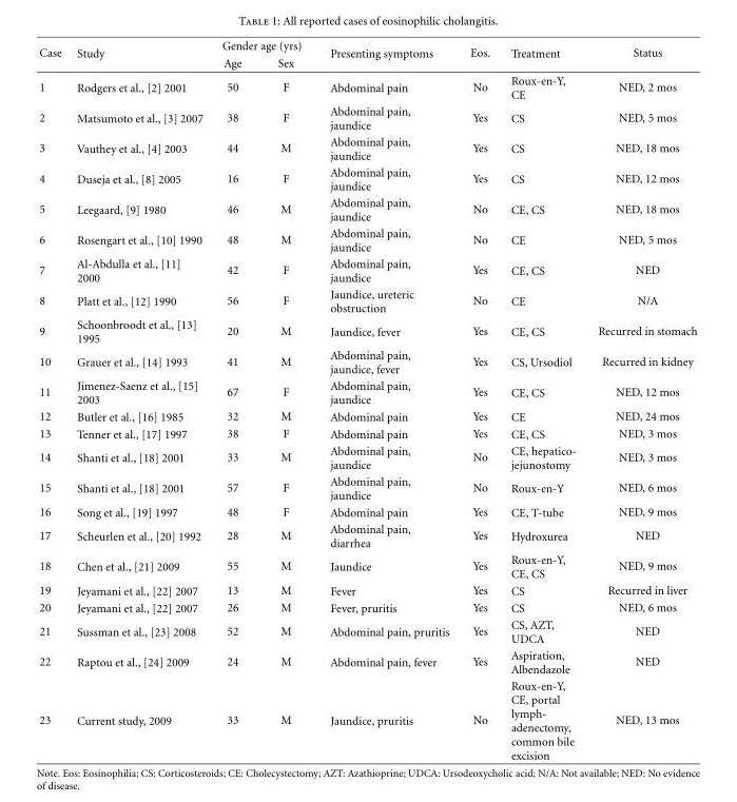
<table><thead><tr><td rowspan="2">Case</td><td rowspan="2">Study</td><td colspan="2">Gender age (yrs)</td><td rowspan="2">Presenting symptoms</td><td rowspan="2">Eos.</td><td rowspan="2">Treatment</td><td rowspan="2">Status</td></tr><tr><td>Age</td><td>Sex</td></tr></thead><tbody><tr><td>1</td><td>Rodgers et al., [2] 2001</td><td>50</td><td>F</td><td>Abdominal pain</td><td>No</td><td>Roux-en-Y, CE</td><td>NED, 2 mos</td></tr><tr><td>2</td><td>Matsumoto et al., [3] 2007</td><td>38</td><td>F</td><td>Abdominal pain, jaundice</td><td>Yes</td><td>CS</td><td>NED, 5 mos</td></tr><tr><td>3</td><td>Vauthey et al., [4] 2003</td><td>44</td><td>M</td><td>Abdominal pain, jaundice</td><td>Yes</td><td>CS</td><td>NED, 18 mos</td></tr><tr><td>4</td><td>Duseja et al., [8] 2005</td><td>16</td><td>F</td><td>Abdominal pain, jaundice</td><td>Yes</td><td>CS</td><td>NED, 12 mos</td></tr><tr><td>5</td><td>Leegaard, [9] 1980</td><td>46</td><td>M</td><td>Abdominal pain, jaundice</td><td>No</td><td>CE, CS</td><td>NED, 18 mos</td></tr><tr><td>6</td><td>Rosengart et al., [10] 1990</td><td>48</td><td>M</td><td>Abdominal pain, jaundice</td><td>No</td><td>CE</td><td>NED, 5 mos</td></tr><tr><td>7</td><td>Al-Abdulla et al., [11] 2000</td><td>42</td><td>F</td><td>Abdominal pain, jaundice</td><td>Yes</td><td>CE, CS</td><td>NED</td></tr><tr><td>8</td><td>Platt et al., [12] 1990</td><td>56</td><td>F</td><td>Jaundice, ureteric obstruction</td><td>No</td><td>CE</td><td>N/A</td></tr><tr><td>9</td><td>Schoonbroodt et al., [13] 1995</td><td>20</td><td>M</td><td>Jaundice, fever</td><td>Yes</td><td>CE, CS</td><td>Recurred in stomach</td></tr><tr><td>10</td><td>Grauer et al., [14] 1993</td><td>41</td><td>M</td><td>Abdominal pain, jaundice, fever</td><td>Yes</td><td>CS, Ursodiol</td><td>Recurred in kidney</td></tr><tr><td>11</td><td>Jimenez-Saenz et al., [15] 2003</td><td>67</td><td>F</td><td>Abdominal pain, jaundice</td><td>Yes</td><td>CE, CS</td><td>NED, 12 mos</td></tr><tr><td>12</td><td>Butler et al., [16] 1985</td><td>32</td><td>M</td><td>Abdominal pain</td><td>Yes</td><td>CE</td><td>NED, 24 mos</td></tr><tr><td>13</td><td>Tenner et al., [17] 1997</td><td>38</td><td>F</td><td>Abdominal pain</td><td>Yes</td><td>CE, CS</td><td>NED, 3 mos</td></tr><tr><td>14</td><td>Shanti et al., [18] 2001</td><td>33</td><td>M</td><td>Abdominal pain, jaundice</td><td>No</td><td>CE, hepatico- jejunostomy</td><td>NED, 3 mos</td></tr><tr><td>15</td><td>Shanti et al., [18] 2001</td><td>57</td><td>F</td><td>Abdominal pain, jaundice</td><td>No</td><td>Roux-en-Y</td><td>NED, 6 mos</td></tr><tr><td>16</td><td>Song et al., [19] 1997</td><td>48</td><td>F</td><td>Abdominal pain</td><td>Yes</td><td>CE, T-tube</td><td>NED, 9 mos</td></tr><tr><td>17</td><td>Scheurlen et al., [20] 1992</td><td>28</td><td>M</td><td>Abdominal pain, diarrhea</td><td>Yes</td><td>Hydroxurea</td><td>NED</td></tr><tr><td>18</td><td>Chen et al., [21] 2009</td><td>55</td><td>M</td><td>Jaundice</td><td>Yes</td><td>Roux-en-Y, CE, CS</td><td>NED, 9 mos</td></tr><tr><td>19</td><td>Jeyamani et al., [22] 2007</td><td>13</td><td>M</td><td>Fever</td><td>Yes</td><td>CS</td><td>Recurred in liver</td></tr><tr><td>20</td><td>Jeyamani et al., [22] 2007</td><td>26</td><td>M</td><td>Fever, pruritis</td><td>Yes</td><td>CS</td><td>NED, 6 mos</td></tr><tr><td>21</td><td>Sussman et al., [23] 2008</td><td>52</td><td>M</td><td>Abdominal pain, pruritis</td><td>Yes</td><td>CS, AZT, UDCA</td><td>NED</td></tr><tr><td>22</td><td>Raptou et al., [24] 2009</td><td>24</td><td>M</td><td>Abdominal pain, fever</td><td>Yes</td><td>Aspiration, Albendazole</td><td>NED</td></tr><tr><td>23</td><td>Current study, 2009</td><td>33</td><td>M</td><td>Jaundice, pruritis</td><td>No</td><td>Roux-en-Y, CE, portal lymph- adenectomy, common bile excision</td><td>NED, 13 mos</td></tr></tbody></table>